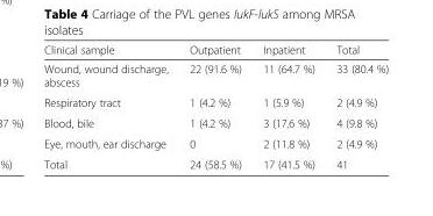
<table><thead><tr><td>Clinical sample</td><td>Outpatient</td><td>Inpatient</td><td>Total</td></tr></thead><tbody><tr><td>Wound, wound discharge, abscess</td><td>22 (91.6 %)</td><td>11 (64.7 %)</td><td>33 (80.4 %)</td></tr><tr><td>Respiratory tract</td><td>1 (4.2 %)</td><td>1 (5.9 %)</td><td>2 (4.9 %)</td></tr><tr><td>Blood, bile</td><td>1 (4.2 %)</td><td>3 (17.6 %)</td><td>4 (9.8 %)</td></tr><tr><td>Eye, mouth, ear discharge</td><td>0</td><td>2 (11.8 %)</td><td>2 (4.9 %)</td></tr><tr><td>Total</td><td>24 (58.5 %)</td><td>17 (41.5 %)</td><td>41</td></tr></tbody></table>